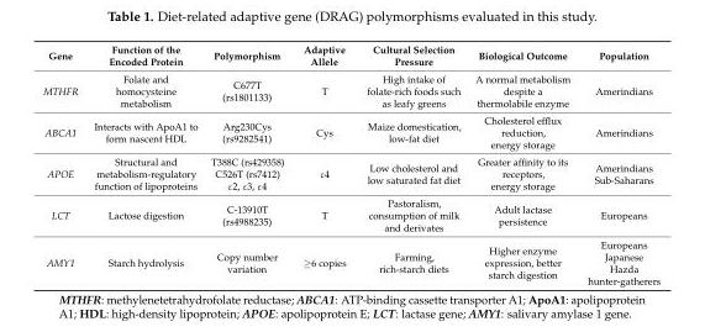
<table><thead><tr><td>Gene</td><td>Function of the Encoded Protein</td><td>Polymorphism</td><td>Adaptive Allele</td><td>Cultural Selection Pressure</td><td>Biological Outcome</td><td>Population</td></tr></thead><tbody><tr><td>MTHFR</td><td>Folate and homocysteine metabolism</td><td>C677T (rs1801133)</td><td>T</td><td>High intake of folate-rich foods such as leafy greens</td><td>A normal metabolism despite a thermolabile enzyme</td><td>Amerindians</td></tr><tr><td>ABCA1</td><td>Interacts with ApoA1 to form nascent HDL</td><td>Arg230Cys (rs9282541)</td><td>Cys</td><td>Maize domestication, low-fat diet</td><td>Cholesterol efflux reduction, energy storage</td><td>Amerindians</td></tr><tr><td>APOE</td><td>Structural and metabolism-regulatory function of lipoproteins</td><td>T388C (rs429358) C526T (rs7412) ε2, ε3, ε4</td><td>ε4</td><td>Low cholesterol and low saturated fat diet</td><td>Greater affinity to its receptors, energy storage</td><td>Amerindians Sub-Saharans</td></tr><tr><td>LCT</td><td>Lactose digestion</td><td>C-13910T (rs4988235)</td><td>T</td><td>Pastoralism, consumption of milk and derivates</td><td>Adult lactase persistence</td><td>Europeans</td></tr><tr><td>AMY1</td><td>Starch hydrolysis</td><td>Copy number variation</td><td>≥6 copies</td><td>Farming, rich-starch diets</td><td>Higher enzyme expression, better starch digestion</td><td>Europeans Japanese Hazda hunter-gatherers</td></tr></tbody></table>